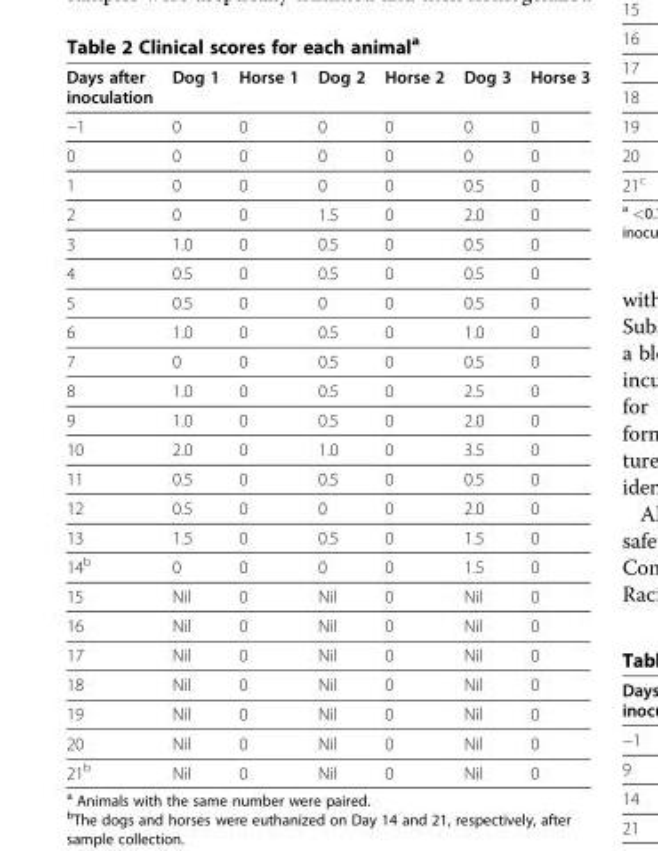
<table><thead><tr><td>Days after inoculation</td><td>Dog 1</td><td>Horse 1</td><td>Dog 2</td><td>Horse 2</td><td>Dog 3</td><td>Horse 3</td></tr></thead><tbody><tr><td>−1</td><td>0</td><td>0</td><td>0</td><td>0</td><td>0</td><td>0</td></tr><tr><td>0</td><td>0</td><td>0</td><td>0</td><td>0</td><td>0</td><td>0</td></tr><tr><td>1</td><td>0</td><td>0</td><td>0</td><td>0</td><td>0.5</td><td>0</td></tr><tr><td>2</td><td>0</td><td>0</td><td>1.5</td><td>0</td><td>2.0</td><td>0</td></tr><tr><td>3</td><td>1.0</td><td>0</td><td>0.5</td><td>0</td><td>0.5</td><td>0</td></tr><tr><td>4</td><td>0.5</td><td>0</td><td>0.5</td><td>0</td><td>0.5</td><td>0</td></tr><tr><td>5</td><td>0.5</td><td>0</td><td>0</td><td>0</td><td>0.5</td><td>0</td></tr><tr><td>6</td><td>1.0</td><td>0</td><td>0.5</td><td>0</td><td>1.0</td><td>0</td></tr><tr><td>7</td><td>0</td><td>0</td><td>0.5</td><td>0</td><td>0.5</td><td>0</td></tr><tr><td>8</td><td>1.0</td><td>0</td><td>0.5</td><td>0</td><td>2.5</td><td>0</td></tr><tr><td>9</td><td>1.0</td><td>0</td><td>0.5</td><td>0</td><td>2.0</td><td>0</td></tr><tr><td>10</td><td>2.0</td><td>0</td><td>1.0</td><td>0</td><td>3.5</td><td>0</td></tr><tr><td>11</td><td>0.5</td><td>0</td><td>0.5</td><td>0</td><td>0.5</td><td>0</td></tr><tr><td>12</td><td>0.5</td><td>0</td><td>0</td><td>0</td><td>2.0</td><td>0</td></tr><tr><td>13</td><td>1.5</td><td>0</td><td>0.5</td><td>0</td><td>1.5</td><td>0</td></tr><tr><td>14<sup>b</sup></td><td>0</td><td>0</td><td>0</td><td>0</td><td>1.5</td><td>0</td></tr><tr><td>15</td><td>Nil</td><td>0</td><td>Nil</td><td>0</td><td>Nil</td><td>0</td></tr><tr><td>16</td><td>Nil</td><td>0</td><td>Nil</td><td>0</td><td>Nil</td><td>0</td></tr><tr><td>17</td><td>Nil</td><td>0</td><td>Nil</td><td>0</td><td>Nil</td><td>0</td></tr><tr><td>18</td><td>Nil</td><td>0</td><td>Nil</td><td>0</td><td>Nil</td><td>0</td></tr><tr><td>19</td><td>Nil</td><td>0</td><td>Nil</td><td>0</td><td>Nil</td><td>0</td></tr><tr><td>20</td><td>Nil</td><td>0</td><td>Nil</td><td>0</td><td>Nil</td><td>0</td></tr><tr><td>21<sup>b</sup></td><td>Nil</td><td>0</td><td>Nil</td><td>0</td><td>Nil</td><td>0</td></tr></tbody></table>